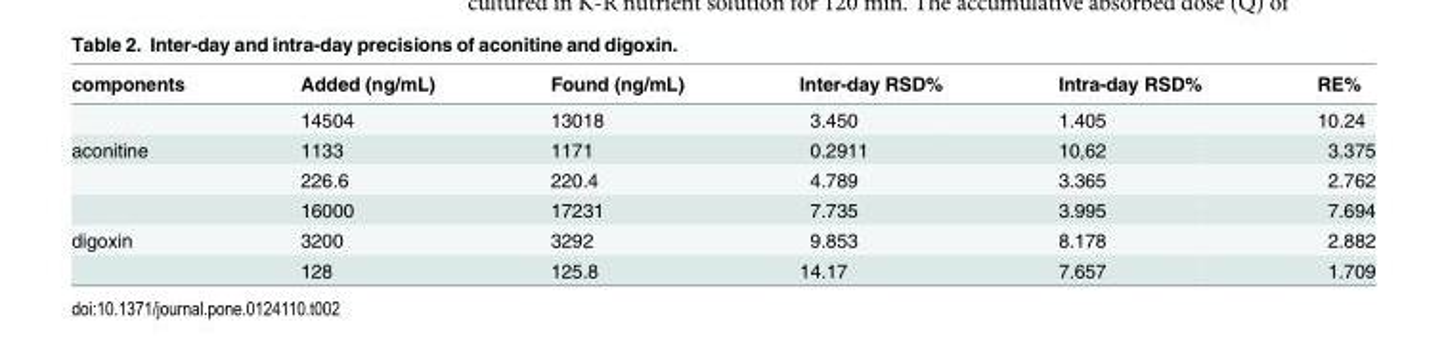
<table><thead><tr><td>components</td><td>Added (ng/mL)</td><td>Found (ng/mL)</td><td>Inter-day RSD%</td><td>Intra-day RSD%</td><td>RE%</td></tr></thead><tbody><tr><td></td><td>14504</td><td>13018</td><td>3.450</td><td>1.405</td><td>10.24</td></tr><tr><td rowspan="3">aconitine</td><td>1133</td><td>1171</td><td>0.2911</td><td>10,62</td><td>3.375</td></tr><tr><td>226.6</td><td>220.4</td><td>4.789</td><td>3.365</td><td>2.762</td></tr><tr><td>16000</td><td>17231</td><td>7.735</td><td>3.995</td><td>7.694</td></tr><tr><td rowspan="2">digoxin</td><td>3200</td><td>3292</td><td>9.853</td><td>8.178</td><td>2.882</td></tr><tr><td>128</td><td>125.8</td><td>14.17</td><td>7.657</td><td>1.709</td></tr></tbody></table>